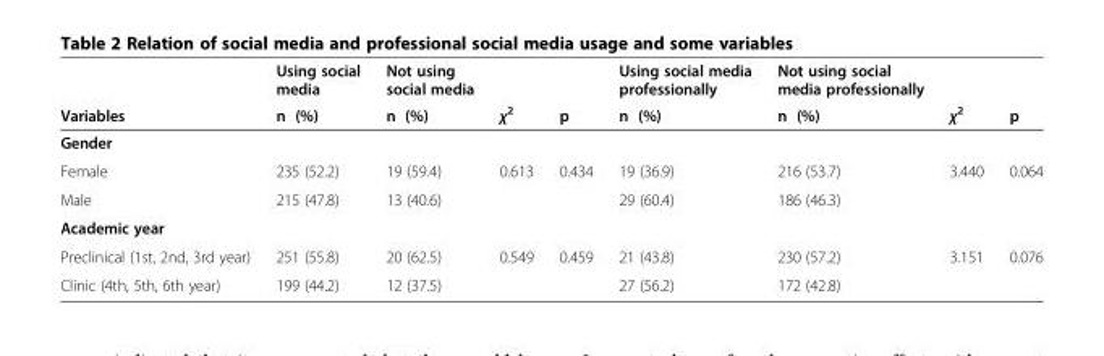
<table><thead><tr><td rowspan="2">Variables</td><td rowspan="2">Using social media n (%)</td><td rowspan="2">Not using social media n (%)</td><td rowspan="2">χ<sup>2</sup></td><td rowspan="2">p</td><td rowspan="2">Using social media professionally n (%)</td><td rowspan="2">Not using social media professionally n (%)</td><td rowspan="2">χ<sup>2</sup></td><td rowspan="2">p</td></tr><tr></tr></thead><tbody><tr><td colspan="9">Gender</td></tr><tr><td>Female</td><td>235 (52.2)</td><td>19 (59.4)</td><td>0.613</td><td>0.434</td><td>19 (36.9)</td><td>216 (53.7)</td><td>3.440</td><td>0.064</td></tr><tr><td>Male</td><td>215 (47.8)</td><td>13 (40.6)</td><td></td><td></td><td>29 (60.4)</td><td>186 (46.3)</td><td></td><td></td></tr><tr><td colspan="9">Academic year</td></tr><tr><td>Preclinical (1st, 2nd, 3rd year)</td><td>251 (55.8)</td><td>20 (62.5)</td><td>0.549</td><td>0.459</td><td>21 (43.8)</td><td>230 (57.2)</td><td>3.151</td><td>0.076</td></tr><tr><td>Clinic (4th, 5th, 6th year)</td><td>199 (44.2)</td><td>12 (37.5)</td><td></td><td></td><td>27 (56.2)</td><td>172 (42.8)</td><td></td><td></td></tr></tbody></table>